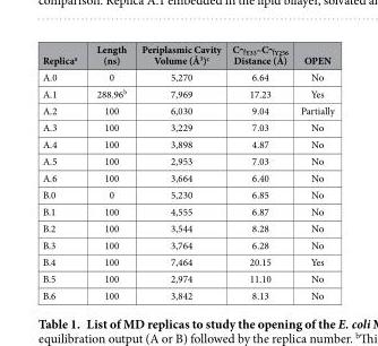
<table><thead><tr><td>Replica<sup>a</sup></td><td>Length (ns)</td><td>Periplasmic Cavity Volume (Å<sup>3</sup>)<sup>c</sup></td><td>Cγ<sub>Y33</sub>–Cγ<sub>Y256</sub> Distance (Å)</td><td>OPEN</td></tr></thead><tbody><tr><td>A.0</td><td>0</td><td>5,270</td><td>6.64</td><td>No</td></tr><tr><td>A.1</td><td>288.96<sup>b</sup></td><td>7,969</td><td>17.23</td><td>Yes</td></tr><tr><td>A.2</td><td>100</td><td>6,030</td><td>9.04</td><td>Partially</td></tr><tr><td>A.3</td><td>100</td><td>3,229</td><td>7.03</td><td>No</td></tr><tr><td>A.4</td><td>100</td><td>3,898</td><td>4.87</td><td>No</td></tr><tr><td>A.5</td><td>100</td><td>2,953</td><td>7.03</td><td>No</td></tr><tr><td>A.6</td><td>100</td><td>3,664</td><td>6.40</td><td>No</td></tr><tr><td>B.0</td><td>0</td><td>5,230</td><td>6.85</td><td>No</td></tr><tr><td>B.1</td><td>100</td><td>4,555</td><td>6.87</td><td>No</td></tr><tr><td>B.2</td><td>100</td><td>3,544</td><td>8.28</td><td>No</td></tr><tr><td>B.3</td><td>100</td><td>3,764</td><td>6.28</td><td>No</td></tr><tr><td>B.4</td><td>100</td><td>7,464</td><td>20.15</td><td>Yes</td></tr><tr><td>B.5</td><td>100</td><td>2,974</td><td>11.10</td><td>No</td></tr><tr><td>B.6</td><td>100</td><td>3,842</td><td>8.13</td><td>No</td></tr></tbody></table>